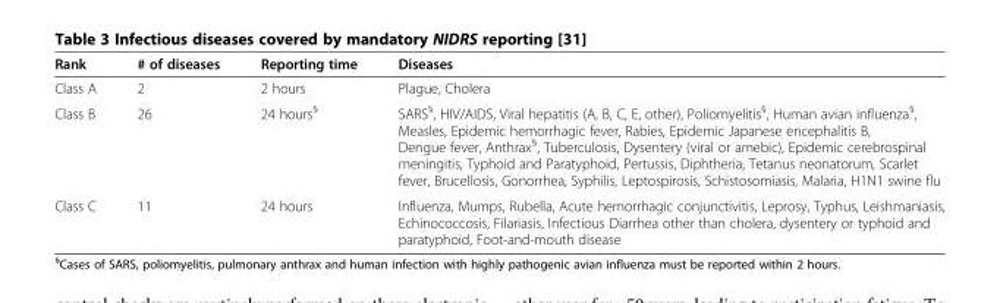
<table><thead><tr><td>Rank</td><td># of diseases</td><td>Reporting time</td><td>Diseases</td></tr></thead><tbody><tr><td>Class A</td><td>2</td><td>2 hours</td><td>Plague, Cholera</td></tr><tr><td>Class B</td><td>26</td><td>24 hours<sup>§</sup></td><td>SARS<sup>§</sup>, HIV/AIDS, Viral hepatitis (A, B, C, E, other), Poliomyelitis<sup>§</sup>, Human avian influenza<sup>§</sup>, Measles, Epidemic hemorrhagic fever, Rabies, Epidemic Japanese encephalitis B, Dengue fever, Anthrax<sup>§</sup>, Tuberculosis, Dysentery (viral or amebic), Epidemic cerebrospinal meningitis, Typhoid and Paratyphoid, Pertussis, Diphtheria, Tetanus neonatorum, Scarlet fever, Brucellosis, Gonorrhea, Syphilis, Leptospirosis, Schistosomiasis, Malaria, H1N1 swine flu</td></tr><tr><td>Class C</td><td>11</td><td>24 hours</td><td>Influenza, Mumps, Rubella, Acute hemorrhagic conjunctivitis, Leprosy, Typhus, Leishmaniasis, Echinococcosis, Filariasis, Infectious Diarrhea other than cholera, dysentery or typhoid and paratyphoid, Foot-and-mouth disease</td></tr></tbody></table>